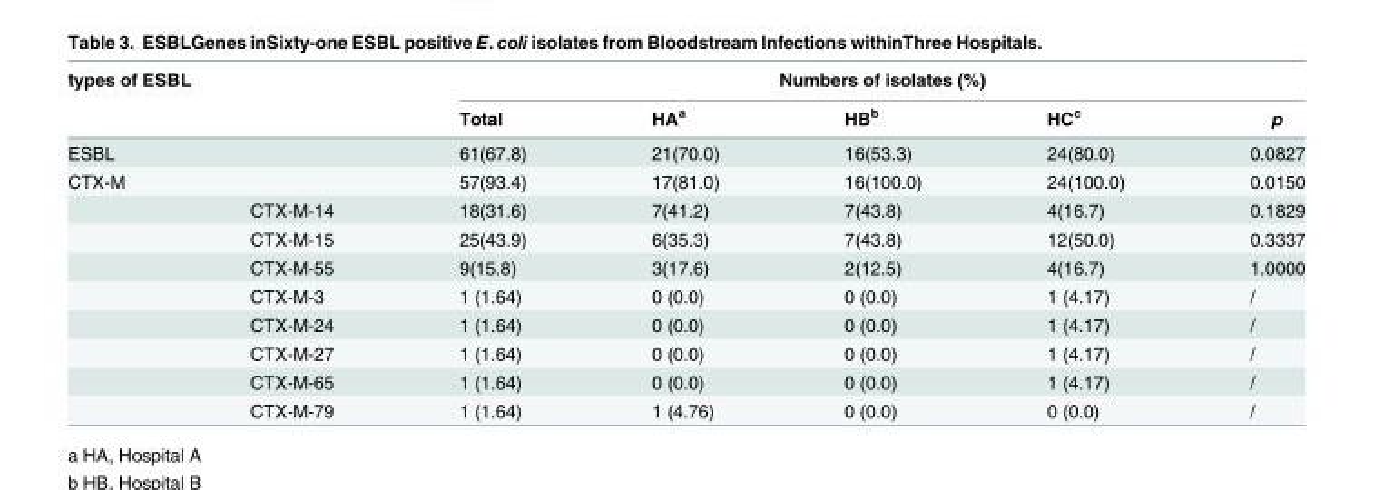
<table><thead><tr><td rowspan="2" colspan="2">types of ESBL</td><td colspan="5">Numbers of isolates (%)</td></tr><tr><td rowspan="2">Total 61(67.8)</td><td rowspan="2">HA<sup>a</sup> 21(70.0)</td><td rowspan="2">HB<sup>b</sup> 16(53.3)</td><td rowspan="2">HC<sup>c</sup> 24(80.0)</td><td rowspan="2">p 0.0827</td></tr><tr><td>ESBL</td><td></td></tr></thead><tbody><tr><td rowspan="9">CTX-M</td><td></td><td>57(93.4)</td><td>17(81.0)</td><td>16(100.0)</td><td>24(100.0)</td><td>0.0150</td></tr><tr><td>CTX-M-14</td><td>18(31.6)</td><td>7(41.2)</td><td>7(43.8)</td><td>4(16.7)</td><td>0.1829</td></tr><tr><td>CTX-M-15</td><td>25(43.9)</td><td>6(35.3)</td><td>7(43.8)</td><td>12(50.0)</td><td>0.3337</td></tr><tr><td>CTX-M-55</td><td>9(15.8)</td><td>3(17.6)</td><td>2(12.5)</td><td>4(16.7)</td><td>1.0000</td></tr><tr><td>CTX-M-3</td><td>1 (1.64)</td><td>0 (0.0)</td><td>0 (0.0)</td><td>1 (4.17)</td><td>/</td></tr><tr><td>CTX-M-24</td><td>1 (1.64)</td><td>0 (0.0)</td><td>0 (0.0)</td><td>1 (4.17)</td><td>/</td></tr><tr><td>CTX-M-27</td><td>1 (1.64)</td><td>0 (0.0)</td><td>0 (0.0)</td><td>1 (4.17)</td><td>/</td></tr><tr><td>CTX-M-65</td><td>1 (1.64)</td><td>0 (0.0)</td><td>0 (0.0)</td><td>1 (4.17)</td><td>/</td></tr><tr><td>CTX-M-79</td><td>1 (1.64)</td><td>1 (4.76)</td><td>0 (0.0)</td><td>0 (0.0)</td><td>/</td></tr></tbody></table>